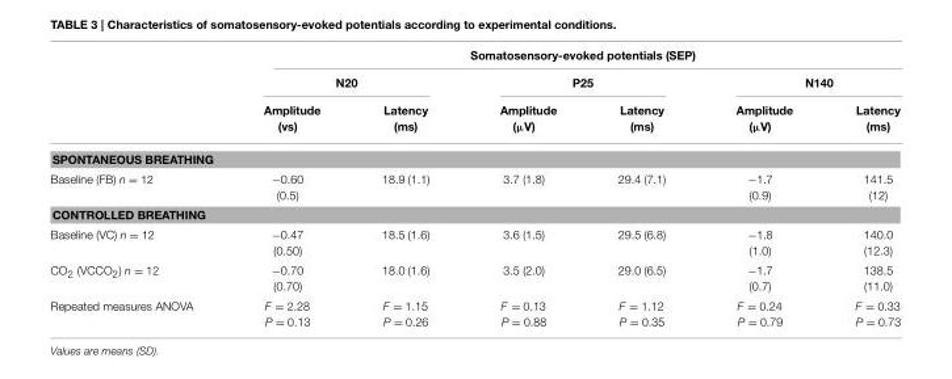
<table><thead><tr><td rowspan="3"></td><td colspan="6">Somatosensory-evoked potentials (SEP)</td></tr><tr><td colspan="2">N20</td><td colspan="2">P25</td><td colspan="2">N140</td></tr><tr><td>Amplitude (vs)</td><td>Latency (ms)</td><td>Amplitude (µV)</td><td>Latency (ms)</td><td>Amplitude (µV)</td><td>Latency (ms)</td></tr></thead><tbody><tr><td colspan="7">SPONTANEOUS BREATHING</td></tr><tr><td>Baseline (FB) n = 12</td><td>−0.60 (0.5)</td><td>18.9 (1.1)</td><td>3.7 (1.8)</td><td>29.4 (7.1)</td><td>−1.7 (0.9)</td><td>141.5 (12)</td></tr><tr><td colspan="7">CONTROLLED BREATHING</td></tr><tr><td>Baseline (VC) n = 12</td><td>−0.47 (0.50)</td><td>18.5 (1.6)</td><td>3.6 (1.5)</td><td>29.5 (6.8)</td><td>−1.8 (1.0)</td><td>140.0 (12.3)</td></tr><tr><td>CO<sub>2</sub> (VCCO<sub>2</sub>) n = 12</td><td>−0.70 (0.70)</td><td>18.0 (1.6)</td><td>3.5 (2.0)</td><td>29.0 (6.5)</td><td>−1.7 (0.7)</td><td>138.5 (11.0)</td></tr><tr><td>Repeated measures ANOVA</td><td>F = 2.28 P = 0.13</td><td>F = 1.15 P = 0.26</td><td>F = 0.13 P = 0.88</td><td>F = 1.12 P = 0.35</td><td>F = 0.24 P = 0.79</td><td>F = 0.33 P = 0.73</td></tr></tbody></table>